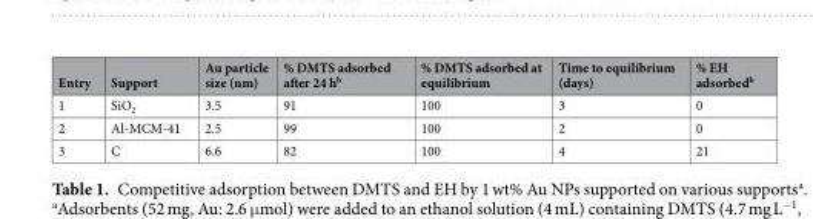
<table><thead><tr><td>Entry</td><td>Support</td><td>Au particle size (nm)</td><td>% DMTS adsorbed after 24 h<sup>b</sup></td><td>% DMTS adsorbed at equilibrium</td><td>Time to equilibrium (days)</td><td>% EH adsorbed<sup>b</sup></td></tr></thead><tbody><tr><td>1</td><td>SiO<sub>2</sub></td><td>3.5</td><td>91</td><td>100</td><td>3</td><td>0</td></tr><tr><td>2</td><td>Al-MCM-41</td><td>2.5</td><td>99</td><td>100</td><td>2</td><td>0</td></tr><tr><td>3</td><td>C</td><td>6.6</td><td>82</td><td>100</td><td>4</td><td>21</td></tr></tbody></table>